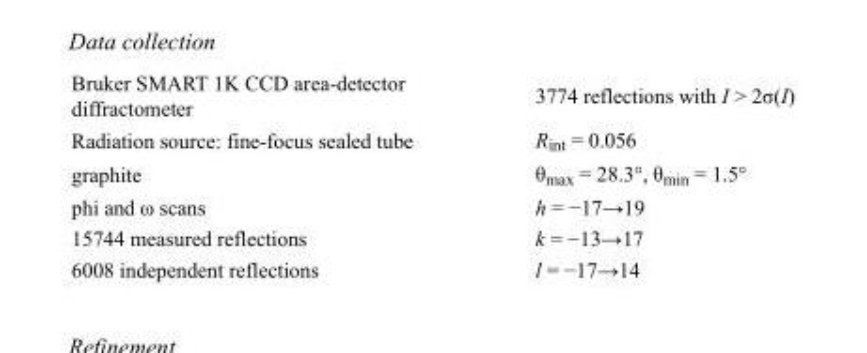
<table><tbody><tr><td>Bruker SMART 1K CCD area-detector diffractometer</td><td>3774 reflections with I &gt; 2σ(I)</td></tr><tr><td>Radiation source: fine-focus sealed tube</td><td>R<sub>int</sub> = 0.056</td></tr><tr><td>graphite</td><td>θ<sub>max</sub> = 28.3°, θ<sub>min</sub> = 1.5°</td></tr><tr><td>phi and ω scans</td><td>h = −17→19</td></tr><tr><td>15744 measured reflections</td><td>k = −13→17</td></tr><tr><td>6008 independent reflections</td><td>l = −17→14</td></tr></tbody></table>